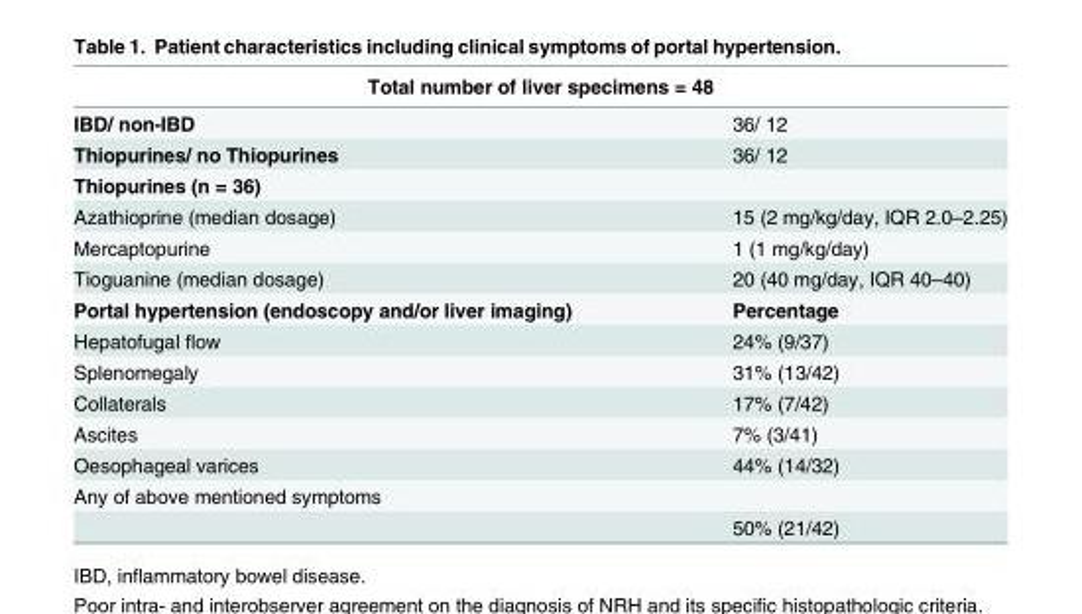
<table><thead><tr><td colspan="2">Total number of liver specimens = 48</td></tr><tr><td>IBD/ non-IBD</td><td>36/ 12</td></tr></thead><tbody><tr><td>Thiopurines/ no Thiopurines</td><td>36/ 12</td></tr><tr><td colspan="2">Thiopurines (n = 36)</td></tr><tr><td>Azathioprine (median dosage)</td><td>15 (2 mg/kg/day, IQR 2.0–2.25)</td></tr><tr><td>Mercaptopurine</td><td>1 (1 mg/kg/day)</td></tr><tr><td>Tioguanine (median dosage)</td><td>20 (40 mg/day, IQR 40–40)</td></tr><tr><td>Portal hypertension (endoscopy and/or liver imaging)</td><td>Percentage</td></tr><tr><td>Hepatofugal flow</td><td>24% (9/37)</td></tr><tr><td>Splenomegaly</td><td>31% (13/42)</td></tr><tr><td>Collaterals</td><td>17% (7/42)</td></tr><tr><td>Ascites</td><td>7% (3/41)</td></tr><tr><td>Oesophageal varices</td><td>44% (14/32)</td></tr><tr><td colspan="2">Any of above mentioned symptoms</td></tr><tr><td></td><td>50% (21/42)</td></tr></tbody></table>